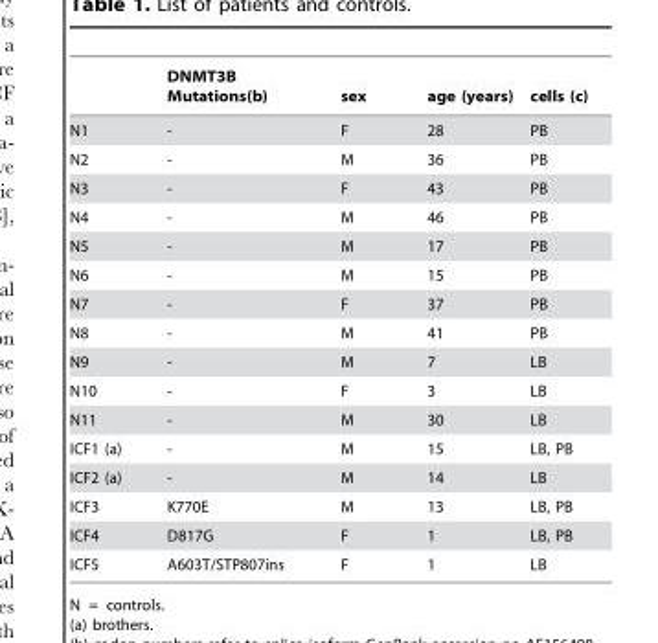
<table><thead><tr><td></td><td>DNMT3B Mutations(b)</td><td>sex</td><td>age (years)</td><td>cells (c)</td></tr></thead><tbody><tr><td>N1</td><td>-</td><td>F</td><td>28</td><td>PB</td></tr><tr><td>N2</td><td>-</td><td>M</td><td>36</td><td>PB</td></tr><tr><td>N3</td><td>-</td><td>F</td><td>43</td><td>PB</td></tr><tr><td>N4</td><td>-</td><td>M</td><td>46</td><td>PB</td></tr><tr><td>N5</td><td>-</td><td>M</td><td>17</td><td>PB</td></tr><tr><td>N6</td><td>-</td><td>M</td><td>15</td><td>PB</td></tr><tr><td>N7</td><td>-</td><td>F</td><td>37</td><td>PB</td></tr><tr><td>N8</td><td>-</td><td>M</td><td>41</td><td>PB</td></tr><tr><td>N9</td><td>-</td><td>M</td><td>7</td><td>LB</td></tr><tr><td>N10</td><td>-</td><td>F</td><td>3</td><td>LB</td></tr><tr><td>N11</td><td>-</td><td>M</td><td>30</td><td>LB</td></tr><tr><td>ICF1 (a)</td><td>-</td><td>M</td><td>15</td><td>LB, PB</td></tr><tr><td>ICF2 (a)</td><td>-</td><td>M</td><td>14</td><td>LB</td></tr><tr><td>ICF3</td><td>K770E</td><td>M</td><td>13</td><td>LB, PB</td></tr><tr><td>ICF4</td><td>D817G</td><td>F</td><td>1</td><td>LB, PB</td></tr><tr><td>ICF5</td><td>A603T/STP807ins</td><td>F</td><td>1</td><td>LB</td></tr></tbody></table>